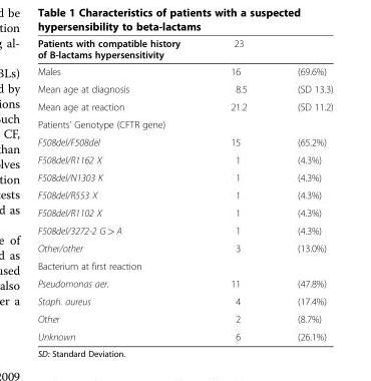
<table><tbody><tr><td>Patients with compatible history of B-lactams hypersensitivity</td><td>23</td><td></td></tr><tr><td>Males</td><td>16</td><td>(69.6%)</td></tr><tr><td>Mean age at diagnosis</td><td>8.5</td><td>(SD 13.3)</td></tr><tr><td>Mean age at reaction</td><td>21.2</td><td>(SD 11.2)</td></tr><tr><td colspan="3">Patients&#x27; Genotype (CFTR gene)</td></tr><tr><td>F508del/F508del</td><td>15</td><td>(65.2%)</td></tr><tr><td>F508del/R1162 X</td><td>1</td><td>(4.3%)</td></tr><tr><td>F508del/N1303 K</td><td>1</td><td>(4.3%)</td></tr><tr><td>F508del/R553 X</td><td>1</td><td>(4.3%)</td></tr><tr><td>F508del/R1102 X</td><td>1</td><td>(4.3%)</td></tr><tr><td>F508del/3272-2 G &gt; A</td><td>1</td><td>(4.3%)</td></tr><tr><td>Other/other</td><td>3</td><td>(13.0%)</td></tr><tr><td colspan="3">Bacterium at first reaction</td></tr><tr><td>Pseudomonas aer.</td><td>11</td><td>(47.8%)</td></tr><tr><td>Staph. aureus</td><td>4</td><td>(17.4%)</td></tr><tr><td>Other</td><td>2</td><td>(8.7%)</td></tr><tr><td>Unknown</td><td>6</td><td>(26.1%)</td></tr></tbody></table>